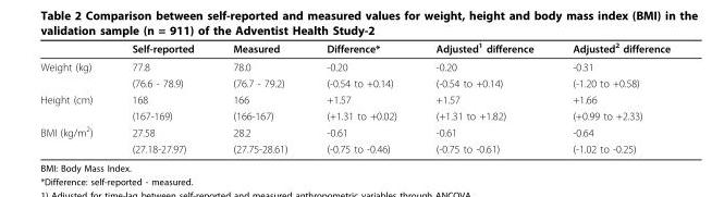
<table><thead><tr><td></td><td>Self-reported</td><td>Measured</td><td>Difference*</td><td>Adjusted<sup>1</sup> difference</td><td>Adjusted<sup>2</sup> difference</td></tr></thead><tbody><tr><td rowspan="2">Weight (kg)</td><td>77.8</td><td>78.0</td><td>-0.20</td><td>-0.20</td><td>-0.31</td></tr><tr><td>(76.6 - 78.9)</td><td>(76.7 - 79.2)</td><td>(-0.54 to +0.14)</td><td>(-0.54 to +0.14)</td><td>(-1.20 to +0.58)</td></tr><tr><td rowspan="2">Height (cm)</td><td>168</td><td>166</td><td>+1.57</td><td>+1.57</td><td>+1.66</td></tr><tr><td>(167-169)</td><td>(166-167)</td><td>(+1.31 to +0.02)</td><td>(+1.31 to +1.82)</td><td>(+0.99 to +2.33)</td></tr><tr><td rowspan="2">BMI (kg/m<sup>2</sup>)</td><td>27.58</td><td>28.2</td><td>-0.61</td><td>-0.61</td><td>-0.64</td></tr><tr><td>(27.18-27.97)</td><td>(27.75-28.61)</td><td>(-0.75 to -0.46)</td><td>(-0.75 to -0.61)</td><td>(-1.02 to -0.25)</td></tr></tbody></table>